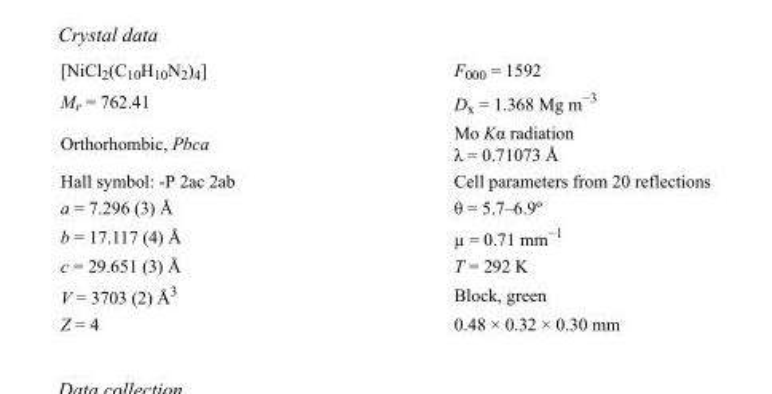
<table><tbody><tr><td>[NiCl<sub>2</sub>(C<sub>10</sub>H<sub>10</sub>N<sub>2</sub>)<sub>4</sub>]</td><td>F000 = 1592</td></tr><tr><td>M<sub>r</sub> = 762.41</td><td>D<sub>x</sub> = 1.368 Mg m<sup>−3</sup></td></tr><tr><td>Orthorhombic, Pbca</td><td>Mo Kα radiation λ = 0.71073 Å</td></tr><tr><td>Hall symbol: -P 2ac 2ab</td><td>Cell parameters from 20 reflections</td></tr><tr><td>a = 7.296 (3) Å</td><td>θ = 5.7–6.9º</td></tr><tr><td>b = 17.117 (4) Å</td><td>µ = 0.71 mm<sup>−1</sup></td></tr><tr><td>c = 29.651 (3) Å</td><td>T = 292 K</td></tr><tr><td>V = 3703 (2) Å<sup>3</sup></td><td>Block, green</td></tr><tr><td>Z = 4</td><td>0.48 × 0.32 × 0.30 mm</td></tr></tbody></table>